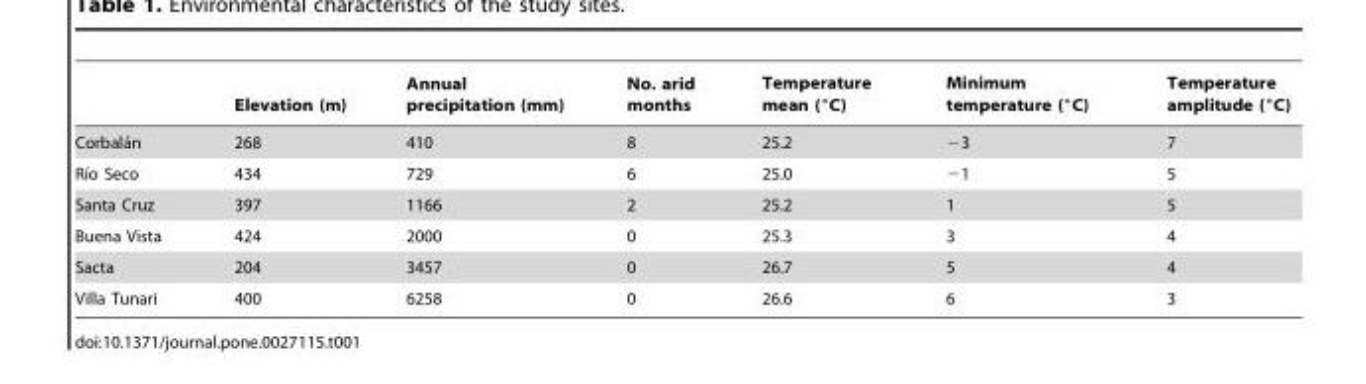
<table><thead><tr><td></td><td>Elevation (m)</td><td>Annual precipitation (mm)</td><td>No. arid months</td><td>Temperature mean (°C)</td><td>Minimum temperature (°C)</td><td>Temperature amplitude (°C)</td></tr></thead><tbody><tr><td>Corbala´n</td><td>268</td><td>410</td><td>8</td><td>25.2</td><td>−3</td><td>7</td></tr><tr><td>Rı´o Seco</td><td>434</td><td>729</td><td>6</td><td>25.0</td><td>−1</td><td>5</td></tr><tr><td>Santa Cruz</td><td>397</td><td>1166</td><td>2</td><td>25.2</td><td>1</td><td>5</td></tr><tr><td>Buena Vista</td><td>424</td><td>2000</td><td>0</td><td>25.3</td><td>3</td><td>4</td></tr><tr><td>Sacta</td><td>204</td><td>3457</td><td>0</td><td>26.7</td><td>5</td><td>4</td></tr><tr><td>Villa Tunari</td><td>400</td><td>6258</td><td>0</td><td>26.6</td><td>6</td><td>3</td></tr></tbody></table>